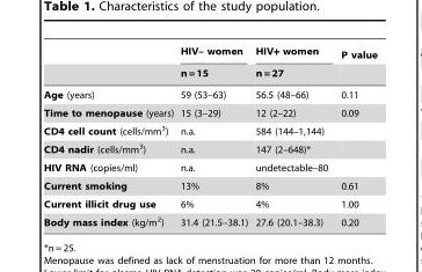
<table><thead><tr><td rowspan="2"></td><td rowspan="2">HIV– women n = 15</td><td rowspan="2">HIV+ women n = 27</td><td rowspan="2">P value</td></tr><tr></tr></thead><tbody><tr><td>Age (years)</td><td>59 (53–63)</td><td>56.5 (48–66)</td><td>0.11</td></tr><tr><td>Time to menopause (years)</td><td>15 (3–29)</td><td>12 (2–22)</td><td>0.09</td></tr><tr><td>CD4 cell count (cells/mm<sup>3</sup>)</td><td>n.a.</td><td>584 (144–1,144)</td><td></td></tr><tr><td>CD4 nadir (cells/mm<sup>3</sup>)</td><td>n.a.</td><td>147 (2–648)*</td><td></td></tr><tr><td>HIV RNA (copies/ml)</td><td>n.a.</td><td>undetectable–80</td><td></td></tr><tr><td>Current smoking</td><td>13%</td><td>8%</td><td>0.61</td></tr><tr><td>Current illicit drug use</td><td>6%</td><td>4%</td><td>1.00</td></tr><tr><td>Body mass index (kg/m<sup>2</sup>)</td><td>31.4 (21.5–38.1)</td><td>27.6 (20.1–38.3)</td><td>0.20</td></tr></tbody></table>